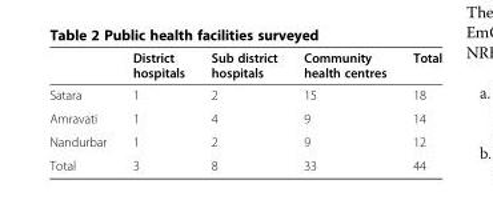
<table><thead><tr><td></td><td>District hospitals</td><td>Sub district hospitals</td><td>Community health centres</td><td>Total</td></tr></thead><tbody><tr><td>Satara</td><td>1</td><td>2</td><td>15</td><td>18</td></tr><tr><td>Amravati</td><td>1</td><td>4</td><td>9</td><td>14</td></tr><tr><td>Nandurbar</td><td>1</td><td>2</td><td>9</td><td>12</td></tr><tr><td>Total</td><td>3</td><td>8</td><td>33</td><td>44</td></tr></tbody></table>